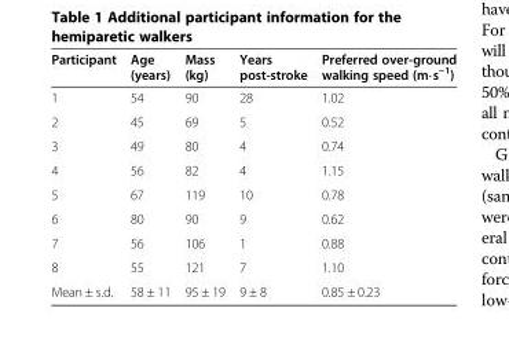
<table><thead><tr><td>Participant</td><td>Age (years)</td><td>Mass (kg)</td><td>Years post-stroke</td><td>Preferred over-ground walking speed (m⋅s<sup>−1</sup>)</td></tr></thead><tbody><tr><td>1</td><td>54</td><td>90</td><td>28</td><td>1.02</td></tr><tr><td>2</td><td>45</td><td>69</td><td>5</td><td>0.52</td></tr><tr><td>3</td><td>49</td><td>80</td><td>4</td><td>0.74</td></tr><tr><td>4</td><td>56</td><td>82</td><td>4</td><td>1.15</td></tr><tr><td>5</td><td>67</td><td>119</td><td>10</td><td>0.78</td></tr><tr><td>6</td><td>80</td><td>90</td><td>9</td><td>0.62</td></tr><tr><td>7</td><td>56</td><td>106</td><td>1</td><td>0.88</td></tr><tr><td>8</td><td>55</td><td>121</td><td>7</td><td>1.10</td></tr><tr><td>Mean ± s.d.</td><td>58 ± 11</td><td>95 ± 19</td><td>9 ± 8</td><td>0.85 ± 0.23</td></tr></tbody></table>